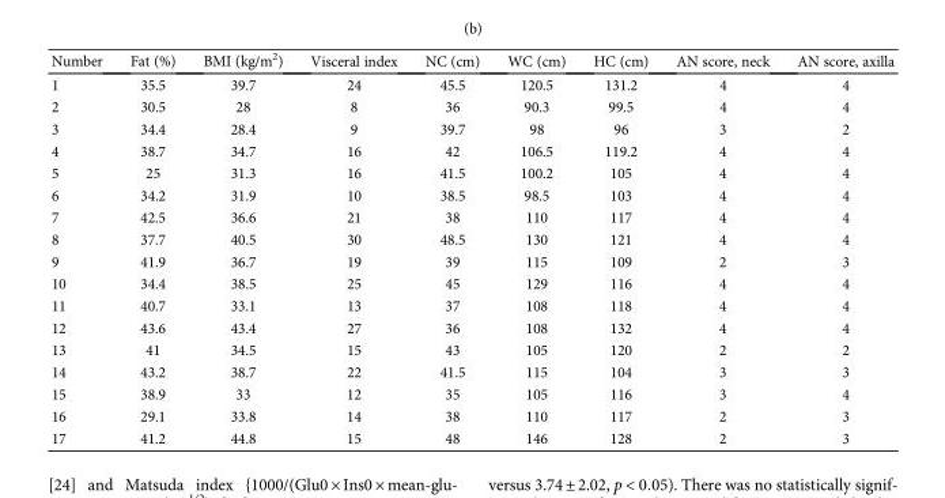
<table><thead><tr><td>Number</td><td>Fat (%)</td><td>BMI (kg/m<sup>2</sup>)</td><td>Visceral index</td><td>NC (cm)</td><td>WC (cm)</td><td>HC (cm)</td><td>AN score, neck</td><td>AN score, axilla</td></tr></thead><tbody><tr><td>1</td><td>35.5</td><td>39.7</td><td>24</td><td>45.5</td><td>120.5</td><td>131.2</td><td>4</td><td>4</td></tr><tr><td>2</td><td>30.5</td><td>28</td><td>8</td><td>36</td><td>90.3</td><td>99.5</td><td>4</td><td>4</td></tr><tr><td>3</td><td>34.4</td><td>28.4</td><td>9</td><td>39.7</td><td>98</td><td>96</td><td>3</td><td>2</td></tr><tr><td>4</td><td>38.7</td><td>34.7</td><td>16</td><td>42</td><td>106.5</td><td>119.2</td><td>4</td><td>4</td></tr><tr><td>5</td><td>25</td><td>31.3</td><td>16</td><td>41.5</td><td>100.2</td><td>105</td><td>4</td><td>4</td></tr><tr><td>6</td><td>34.2</td><td>31.9</td><td>10</td><td>38.5</td><td>98.5</td><td>103</td><td>4</td><td>4</td></tr><tr><td>7</td><td>42.5</td><td>36.6</td><td>21</td><td>38</td><td>110</td><td>117</td><td>4</td><td>4</td></tr><tr><td>8</td><td>37.7</td><td>40.5</td><td>30</td><td>48.5</td><td>130</td><td>121</td><td>4</td><td>4</td></tr><tr><td>9</td><td>41.9</td><td>36.7</td><td>19</td><td>39</td><td>115</td><td>109</td><td>2</td><td>3</td></tr><tr><td>10</td><td>34.4</td><td>38.5</td><td>25</td><td>45</td><td>129</td><td>116</td><td>4</td><td>4</td></tr><tr><td>11</td><td>40.7</td><td>33.1</td><td>13</td><td>37</td><td>108</td><td>118</td><td>4</td><td>4</td></tr><tr><td>12</td><td>43.6</td><td>43.4</td><td>27</td><td>36</td><td>108</td><td>132</td><td>4</td><td>4</td></tr><tr><td>13</td><td>41</td><td>34.5</td><td>15</td><td>43</td><td>105</td><td>120</td><td>2</td><td>2</td></tr><tr><td>14</td><td>43.2</td><td>38.7</td><td>22</td><td>41.5</td><td>115</td><td>104</td><td>3</td><td>3</td></tr><tr><td>15</td><td>38.9</td><td>33</td><td>12</td><td>35</td><td>105</td><td>116</td><td>3</td><td>4</td></tr><tr><td>16</td><td>29.1</td><td>33.8</td><td>14</td><td>38</td><td>110</td><td>117</td><td>2</td><td>3</td></tr><tr><td>17</td><td>41.2</td><td>44.8</td><td>15</td><td>48</td><td>146</td><td>128</td><td>2</td><td>3</td></tr></tbody></table>